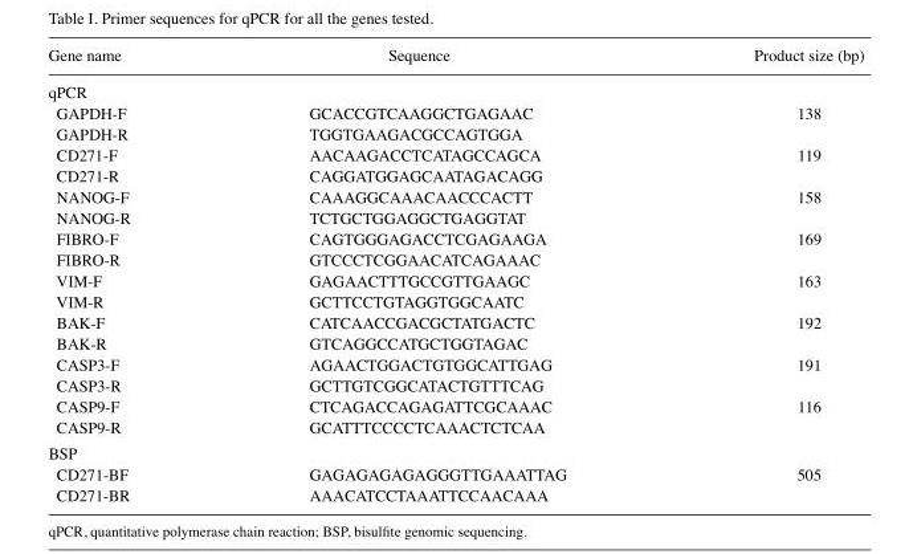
<table><thead><tr><td>Gene name</td><td>Sequence</td><td>Product size (bp)</td></tr></thead><tbody><tr><td colspan="3">qPCR</td></tr><tr><td>GAPDh-f</td><td>GCACCGTCAAGGCTGAGAAC</td><td>138</td></tr><tr><td>GAPDh-R</td><td>TGGTGAAGACGCCAGTGGA</td><td></td></tr><tr><td>CD271-f</td><td>AACAAGACCTCATAGCCAGCA</td><td>119</td></tr><tr><td>CD271-R</td><td>CAGGATGGAGCAATAGACAGG</td><td></td></tr><tr><td>NANOG-f</td><td>CAAAGGCAAACAACCCACTT</td><td>158</td></tr><tr><td>NANOG-R</td><td>TCTGCTGGAGGCTGAGGTAT</td><td></td></tr><tr><td>fIBRO-f</td><td>CAGTGGGAGACCTCGAGAAGA</td><td>169</td></tr><tr><td>fIBRO-R</td><td>GTCCCTCGGAACATCAGAAAC</td><td></td></tr><tr><td>VIM-f</td><td>GAGAACTTTGCCGTTGAAGC</td><td>163</td></tr><tr><td>VIM-R</td><td>GCTTCCTGTAGGTGGCAATC</td><td></td></tr><tr><td>BAK-f</td><td>CATCAACCGACGCTATGACTC</td><td>192</td></tr><tr><td>BAK-R</td><td>GTCAGGCCATGCTGGTAGAC</td><td></td></tr><tr><td>CASP3-f</td><td>AGAACTGGACTGTGGCATTGAG</td><td>191</td></tr><tr><td>CASP3-R</td><td>GCTTGTCGGCATACTGTTTCAG</td><td></td></tr><tr><td>CASP9-f</td><td>CTCAGACCAGAGATTCGCAAAC</td><td>116</td></tr><tr><td>CASP9-R</td><td>GCATTTCCCCTCAAACTCTCAA</td><td></td></tr><tr><td colspan="3">BSP</td></tr><tr><td>CD271-Bf</td><td>GAGAGAGAGAGGGTTGAAATTAG</td><td>505</td></tr><tr><td>CD271-BR</td><td>AAACATCCTAAATTCCAACAAA</td><td></td></tr></tbody></table>